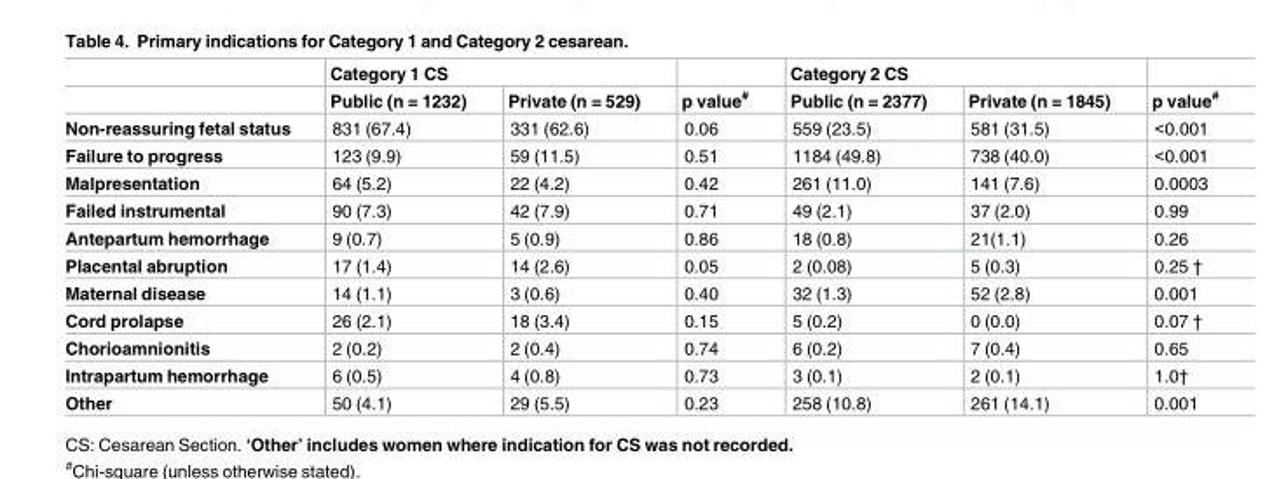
<table><thead><tr><td rowspan="2"></td><td colspan="2">Category 1 CS</td><td rowspan="2">p value<sup>#</sup></td><td colspan="2">Category 2 CS</td><td rowspan="2">p value<sup>#</sup></td></tr><tr><td>Public (n = 1232)</td><td>Private (n = 529)</td><td>Public (n = 2377)</td><td>Private (n = 1845)</td></tr></thead><tbody><tr><td>Non-reassuring fetal status</td><td>831 (67.4)</td><td>331 (62.6)</td><td>0.06</td><td>559 (23.5)</td><td>581 (31.5)</td><td>&lt;0.001</td></tr><tr><td>Failure to progress</td><td>123 (9.9)</td><td>59 (11.5)</td><td>0.51</td><td>1184 (49.8)</td><td>738 (40.0)</td><td>&lt;0.001</td></tr><tr><td>Malpresentation</td><td>64 (5.2)</td><td>22 (4.2)</td><td>0.42</td><td>261 (11.0)</td><td>141 (7.6)</td><td>0.0003</td></tr><tr><td>Failed instrumental</td><td>90 (7.3)</td><td>42 (7.9)</td><td>0.71</td><td>49 (2.1)</td><td>37 (2.0)</td><td>0.99</td></tr><tr><td>Antepartum hemorrhage</td><td>9 (0.7)</td><td>5 (0.9)</td><td>0.86</td><td>18 (0.8)</td><td>21(1.1)</td><td>0.26</td></tr><tr><td>Placental abruption</td><td>17 (1.4)</td><td>14 (2.6)</td><td>0.05</td><td>2 (0.08)</td><td>5 (0.3)</td><td>0.25 †</td></tr><tr><td>Maternal disease</td><td>14 (1.1)</td><td>3 (0.6)</td><td>0.40</td><td>32 (1.3)</td><td>52 (2.8)</td><td>0.001</td></tr><tr><td>Cord prolapse</td><td>26 (2.1)</td><td>18 (3.4)</td><td>0.15</td><td>5 (0.2)</td><td>0 (0.0)</td><td>0.07 †</td></tr><tr><td>Chorioamnionitis</td><td>2 (0.2)</td><td>2 (0.4)</td><td>0.74</td><td>6 (0.2)</td><td>7 (0.4)</td><td>0.65</td></tr><tr><td>Intrapartum hemorrhage</td><td>6 (0.5)</td><td>4 (0.8)</td><td>0.73</td><td>3 (0.1)</td><td>2 (0.1)</td><td>1.0†</td></tr><tr><td>Other</td><td>50 (4.1)</td><td>29 (5.5)</td><td>0.23</td><td>258 (10.8)</td><td>261 (14.1)</td><td>0.001</td></tr></tbody></table>